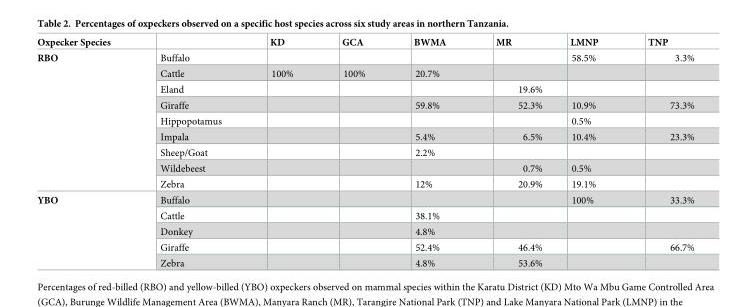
<table><thead><tr><td>Oxpecker Species</td><td></td><td>KD</td><td>GCA</td><td>BWMA</td><td>MR</td><td>LMNP</td><td>TNP</td></tr></thead><tbody><tr><td rowspan="9">RBO</td><td>Buffalo</td><td></td><td></td><td></td><td></td><td>58.5%</td><td>3.3%</td></tr><tr><td>Cattle</td><td>100%</td><td>100%</td><td>20.7%</td><td></td><td></td><td></td></tr><tr><td>Eland</td><td></td><td></td><td></td><td>19.6%</td><td></td><td></td></tr><tr><td>Giraffe</td><td></td><td></td><td>59.8%</td><td>52.3%</td><td>10.9%</td><td>73.3%</td></tr><tr><td>Hippopotamus</td><td></td><td></td><td></td><td></td><td>0.5%</td><td></td></tr><tr><td>Impala</td><td></td><td></td><td>5.4%</td><td>6.5%</td><td>10.4%</td><td>23.3%</td></tr><tr><td>Sheep/Goat</td><td></td><td></td><td>2.2%</td><td></td><td></td><td></td></tr><tr><td>Wildebeest</td><td></td><td></td><td></td><td>0.7%</td><td>0.5%</td><td></td></tr><tr><td>Zebra</td><td></td><td></td><td>12%</td><td>20.9%</td><td>19.1%</td><td></td></tr><tr><td rowspan="5">YBO</td><td>Buffalo</td><td></td><td></td><td></td><td></td><td>100%</td><td>33.3%</td></tr><tr><td>Cattle</td><td></td><td></td><td>38.1%</td><td></td><td></td><td></td></tr><tr><td>Donkey</td><td></td><td></td><td>4.8%</td><td></td><td></td><td></td></tr><tr><td>Giraffe</td><td></td><td></td><td>52.4%</td><td>46.4%</td><td></td><td>66.7%</td></tr><tr><td>Zebra</td><td></td><td></td><td>4.8%</td><td>53.6%</td><td></td><td></td></tr></tbody></table>